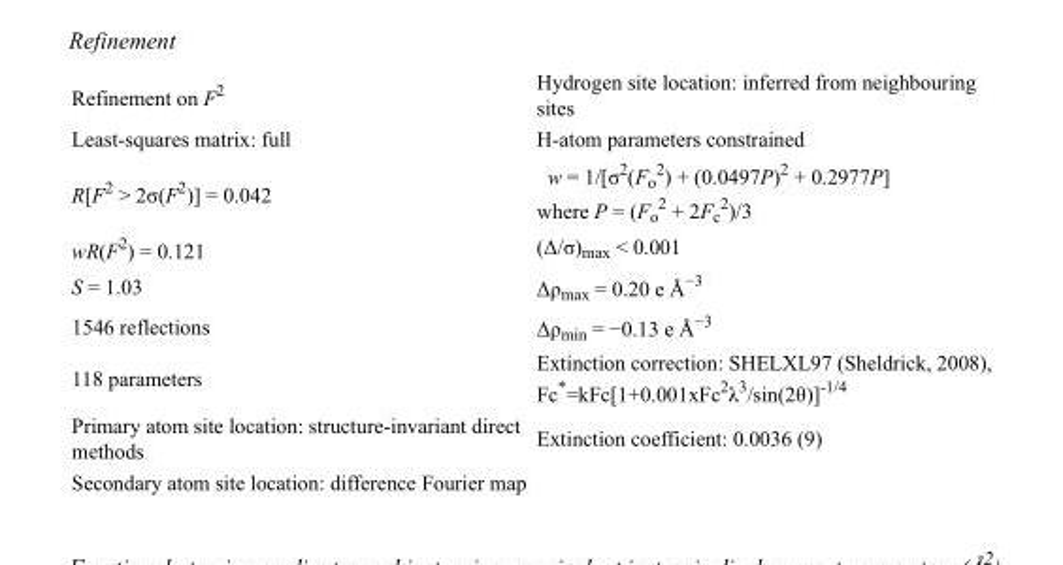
<table><tbody><tr><td>Refinement on F<sup>2</sup></td><td>Hydrogen site location: inferred from neighbouring sites</td></tr><tr><td>Least-squares matrix: full</td><td>H-atom parameters constrained</td></tr><tr><td>R[F<sup>2</sup> &gt; 2σ(F<sup>2</sup>)] = 0.042</td><td>w = 1/[σ<sup>2</sup>(F<sub>o</sub> <sup>2</sup>) + (0.0497P)<sup>2</sup> + 0.2977P] where P = (F<sub>o</sub> <sup>2</sup> + 2F<sub>c</sub> <sup>2</sup>)/3</td></tr><tr><td>wR(F<sup>2</sup>) = 0.121</td><td>(Δ/σ)<sub>max</sub> &lt; 0.001</td></tr><tr><td>S = 1.03</td><td>Δρ<sub>max</sub> = 0.20 e Å<sup>−3</sup></td></tr><tr><td>1546 reflections</td><td>Δρ<sub>min</sub> = −0.13 e Å<sup>−3</sup></td></tr><tr><td>118 parameters</td><td>Extinction correction: SHELXL97 (Sheldrick, 2008), Fc*=kFc[1+0.001xFc<sup>2</sup>λ<sup>3</sup>/sin(2θ)]<sup>-1/4</sup></td></tr><tr><td>Primary atom site location: structure-invariant direct methods</td><td>Extinction coefficient: 0.0036 (9)</td></tr><tr><td>Secondary atom site location: difference Fourier map</td><td></td></tr></tbody></table>